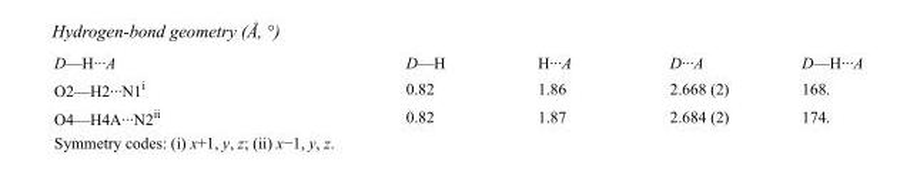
<table><tbody><tr><td>D—H···A</td><td>D—H</td><td>H···A</td><td>D···A</td><td>D—H···A</td></tr><tr><td>O2—H2···N1<sup>i</sup></td><td>0.82</td><td>1.86</td><td>2.668 (2)</td><td>168.</td></tr><tr><td>O4—H4A···N2<sup>ii</sup></td><td>0.82</td><td>1.87</td><td>2.684 (2)</td><td>174.</td></tr></tbody></table>